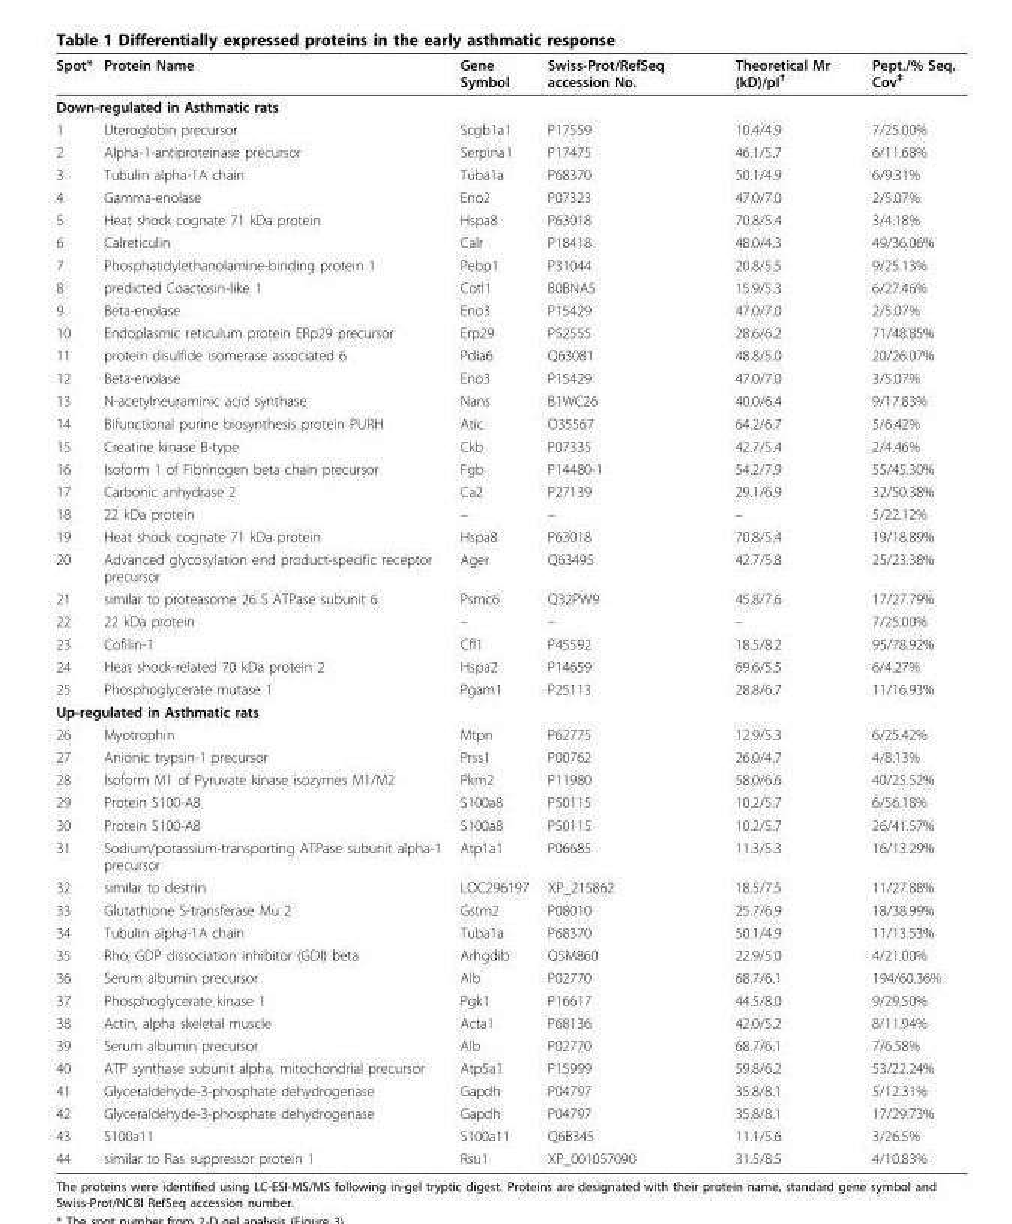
<table><thead><tr><td>Spot*</td><td>Protein Name</td><td>Gene Symbol</td><td>Swiss-Prot/RefSeq accession No.</td><td>Theoretical Mr (kD)/pI<sup>†</sup></td><td>Pept./% Seq. Cov<sup>‡</sup></td></tr></thead><tbody><tr><td colspan="6">Down-regulated in Asthmatic rats</td></tr><tr><td>1</td><td>Uteroglobin precursor</td><td>Scgb1a1</td><td>P17559</td><td>10.4/4.9</td><td>7/25.00%</td></tr><tr><td>2</td><td>Alpha-1-antiproteinase precursor</td><td>Serpina1</td><td>P17475</td><td>46.1/5.7</td><td>6/11.68%</td></tr><tr><td>3</td><td>Tubulin alpha-1A chain</td><td>Tuba1a</td><td>P68370</td><td>50.1/4.9</td><td>6/9.31%</td></tr><tr><td>4</td><td>Gamma-enolase</td><td>Eno2</td><td>P07323</td><td>47.0/7.0</td><td>2/5.07%</td></tr><tr><td>5</td><td>Heat shock cognate 71 kDa protein</td><td>Hspa8</td><td>P63018</td><td>70.8/5.4</td><td>3/4.18%</td></tr><tr><td>6</td><td>Calreticulin</td><td>Calr</td><td>P18418</td><td>48.0/4.3</td><td>49/36.06%</td></tr><tr><td>7</td><td>Phosphatidylethanolamine-binding protein 1</td><td>Pebp1</td><td>P31044</td><td>20.8/5.5</td><td>9/25.13%</td></tr><tr><td>8</td><td>predicted Coactosin-like 1</td><td>Cotl1</td><td>B0BNA5</td><td>15.9/5.3</td><td>6/27.46%</td></tr><tr><td>9</td><td>Beta-enolase</td><td>Eno3</td><td>P15429</td><td>47.0/7.0</td><td>2/5.07%</td></tr><tr><td>10</td><td>Endoplasmic reticulum protein ERp29 precursor</td><td>Erp29</td><td>P52555</td><td>28.6/6.2</td><td>71/48.85%</td></tr><tr><td>11</td><td>protein disulfide isomerase associated 6</td><td>Pdia6</td><td>Q63081</td><td>48.8/5.0</td><td>20/26.07%</td></tr><tr><td>12</td><td>Beta-enolase</td><td>Eno3</td><td>P15429</td><td>47.0/7.0</td><td>3/5.07%</td></tr><tr><td>13</td><td>N-acetylneuraminic acid synthase</td><td>Nans</td><td>B1WC26</td><td>40.0/6.4</td><td>9/17.83%</td></tr><tr><td>14</td><td>Bifunctional purine biosynthesis protein PURH</td><td>Atic</td><td>O35567</td><td>64.2/6.7</td><td>5/6.42%</td></tr><tr><td>15</td><td>Creatine kinase B-type</td><td>Ckb</td><td>P07335</td><td>42.7/5.4</td><td>2/4.46%</td></tr><tr><td>16</td><td>Isoform 1 of Fibrinogen beta chain precursor</td><td>Fgb</td><td>P14480-1</td><td>54.2/7.9</td><td>55/45.30%</td></tr><tr><td>17</td><td>Carbonic anhydrase 2</td><td>Ca2</td><td>P27139</td><td>29.1/6.9</td><td>32/50.38%</td></tr><tr><td>18</td><td>22 kDa protein</td><td>–</td><td>–</td><td>–</td><td>5/22.12%</td></tr><tr><td>19</td><td>Heat shock cognate 71 kDa protein</td><td>Hspa8</td><td>P63018</td><td>70.8/5.4</td><td>19/18.89%</td></tr><tr><td>20</td><td>Advanced glycosylation end product-specific receptor precursor</td><td>Ager</td><td>Q63495</td><td>42.7/5.8</td><td>25/23.38%</td></tr><tr><td>21</td><td>similar to proteasome 26 S ATPase subunit 6</td><td>Psmc6</td><td>Q32PW9</td><td>45.8/7.6</td><td>17/27.79%</td></tr><tr><td>22</td><td>22 kDa protein</td><td>–</td><td>–</td><td>–</td><td>7/25.00%</td></tr><tr><td>23</td><td>Cofilin-1</td><td>Cfl1</td><td>P45592</td><td>18.5/8.2</td><td>95/78.92%</td></tr><tr><td>24</td><td>Heat shock-related 70 kDa protein 2</td><td>Hspa2</td><td>P14659</td><td>69.6/5.5</td><td>6/4.27%</td></tr><tr><td>25</td><td>Phosphoglycerate mutase 1</td><td>Pgam1</td><td>P25113</td><td>28.8/6.7</td><td>11/16.93%</td></tr><tr><td colspan="6">Up-regulated in Asthmatic rats</td></tr><tr><td>26</td><td>Myotrophin</td><td>Mtpn</td><td>P62775</td><td>12.9/5.3</td><td>6/25.42%</td></tr><tr><td>27</td><td>Anionic trypsin-1 precursor</td><td>Prss1</td><td>P00762</td><td>26.0/4.7</td><td>4/8.13%</td></tr><tr><td>28</td><td>Isoform M1 of Pyruvate kinase isozymes M1/M2</td><td>Pkm2</td><td>P11980</td><td>58.0/6.6</td><td>40/25.52%</td></tr><tr><td>29</td><td>Protein S100-A8</td><td>S100a8</td><td>P50115</td><td>10.2/5.7</td><td>6/56.18%</td></tr><tr><td>30</td><td>Protein S100-A8</td><td>S100a8</td><td>P50115</td><td>10.2/5.7</td><td>26/41.57%</td></tr><tr><td>31</td><td>Sodium/potassium-transporting ATPase subunit alpha-1 precursor</td><td>Atp1a1</td><td>P06685</td><td>11.3/5.3</td><td>16/13.29%</td></tr><tr><td>32</td><td>similar to destrin</td><td>LOC296197</td><td>XP_215862</td><td>18.5/7.5</td><td>11/27.88%</td></tr><tr><td>33</td><td>Glutathione S-transferase Mu 2</td><td>Gstm2</td><td>P08010</td><td>25.7/6.9</td><td>18/38.99%</td></tr><tr><td>34</td><td>Tubulin alpha-1A chain</td><td>Tuba1a</td><td>P68370</td><td>50.1/4.9</td><td>11/13.53%</td></tr><tr><td>35</td><td>Rho, GDP dissociation inhibitor (GDI) beta</td><td>Arhgdib</td><td>Q5M860</td><td>22.9/5.0</td><td>4/21.00%</td></tr><tr><td>36</td><td>Serum albumin precursor</td><td>Alb</td><td>P02770</td><td>68.7/6.1</td><td>194/60.36%</td></tr><tr><td>37</td><td>Phosphoglycerate kinase 1</td><td>Pgk1</td><td>P16617</td><td>44.5/8.0</td><td>9/29.50%</td></tr><tr><td>38</td><td>Actin, alpha skeletal muscle</td><td>Acta1</td><td>P68136</td><td>42.0/5.2</td><td>8/11.94%</td></tr><tr><td>39</td><td>Serum albumin precursor</td><td>Alb</td><td>P02770</td><td>68.7/6.1</td><td>7/6.58%</td></tr><tr><td>40</td><td>ATP synthase subunit alpha, mitochondrial precursor</td><td>Atp5a1</td><td>P15999</td><td>59.8/6.2</td><td>53/22.24%</td></tr><tr><td>41</td><td>Glyceraldehyde-3-phosphate dehydrogenase</td><td>Gapdh</td><td>P04797</td><td>35.8/8.1</td><td>5/12.31%</td></tr><tr><td>42</td><td>Glyceraldehyde-3-phosphate dehydrogenase</td><td>Gapdh</td><td>P04797</td><td>35.8/8.1</td><td>17/29.73%</td></tr><tr><td>43</td><td>S100a11</td><td>S100a11</td><td>Q6B345</td><td>11.1/5.6</td><td>3/26.5%</td></tr><tr><td>44</td><td>similar to Ras suppressor protein 1</td><td>Rsu1</td><td>XP_001057090</td><td>31.5/8.5</td><td>4/10.83%</td></tr></tbody></table>